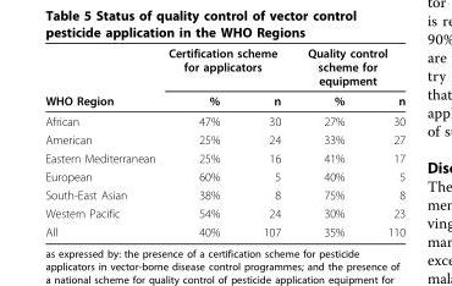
<table><thead><tr><td rowspan="2">WHO Region</td><td colspan="2">Certification scheme for applicators</td><td colspan="2">Quality control scheme for equipment</td></tr><tr><td>%</td><td>n</td><td>%</td><td>n</td></tr></thead><tbody><tr><td>African</td><td>47%</td><td>30</td><td>27%</td><td>30</td></tr><tr><td>American</td><td>25%</td><td>24</td><td>33%</td><td>27</td></tr><tr><td>Eastern Mediterranean</td><td>25%</td><td>16</td><td>41%</td><td>17</td></tr><tr><td>European</td><td>60%</td><td>5</td><td>40%</td><td>5</td></tr><tr><td>South-East Asian</td><td>38%</td><td>8</td><td>75%</td><td>8</td></tr><tr><td>Western Pacific</td><td>54%</td><td>24</td><td>30%</td><td>23</td></tr><tr><td>All</td><td>40%</td><td>107</td><td>35%</td><td>110</td></tr></tbody></table>